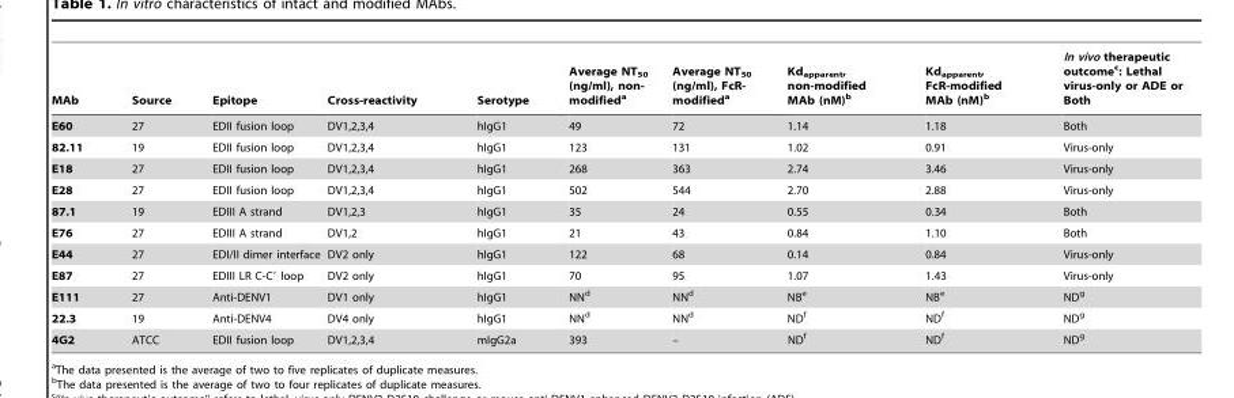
<table><thead><tr><td>MAb</td><td>Source</td><td>Epitope</td><td>Cross-reactivity</td><td>Serotype</td><td>Average NT<sub>50</sub> (ng/ml), non- modified<sup>a</sup></td><td>Average NT<sub>50</sub> (ng/ml), FcR- modified<sup>a</sup></td><td>Kd<sub>apparent</sub>, non-modified MAb (nM)<sup>b</sup></td><td>Kd<sub>apparent</sub>, FcR-modified MAb (nM)<sup>b</sup></td><td>In vivo therapeutic outcome<sup>c</sup>: Lethal virus-only or ADE or Both</td></tr></thead><tbody><tr><td>E60</td><td>27</td><td>EDII fusion loop</td><td>DV1,2,3,4</td><td>hIgG1</td><td>49</td><td>72</td><td>1.14</td><td>1.18</td><td>Both</td></tr><tr><td>82.11</td><td>19</td><td>EDII fusion loop</td><td>DV1,2,3,4</td><td>hIgG1</td><td>123</td><td>131</td><td>1.02</td><td>0.91</td><td>Virus-only</td></tr><tr><td>E18</td><td>27</td><td>EDII fusion loop</td><td>DV1,2,3,4</td><td>hIgG1</td><td>268</td><td>363</td><td>2.74</td><td>3.46</td><td>Virus-only</td></tr><tr><td>E28</td><td>27</td><td>EDII fusion loop</td><td>DV1,2,3,4</td><td>hIgG1</td><td>502</td><td>544</td><td>2.70</td><td>2.88</td><td>Virus-only</td></tr><tr><td>87.1</td><td>19</td><td>EDIII A strand</td><td>DV1,2,3</td><td>hIgG1</td><td>35</td><td>24</td><td>0.55</td><td>0.34</td><td>Both</td></tr><tr><td>E76</td><td>27</td><td>EDIII A strand</td><td>DV1,2</td><td>hIgG1</td><td>21</td><td>43</td><td>0.84</td><td>1.10</td><td>Both</td></tr><tr><td>E44</td><td>27</td><td>EDI/II dimer interface</td><td>DV2 only</td><td>hIgG1</td><td>122</td><td>68</td><td>0.14</td><td>0.84</td><td>Virus-only</td></tr><tr><td>E87</td><td>27</td><td>EDIII LR C-C′ loop</td><td>DV2 only</td><td>hIgG1</td><td>70</td><td>95</td><td>1.07</td><td>1.43</td><td>Virus-only</td></tr><tr><td>E111</td><td>27</td><td>Anti-DENV1</td><td>DV1 only</td><td>hIgG1</td><td>NN<sup>d</sup></td><td>NN<sup>d</sup></td><td>NB<sup>e</sup></td><td>NB<sup>e</sup></td><td>ND<sup>g</sup></td></tr><tr><td>22.3</td><td>19</td><td>Anti-DENV4</td><td>DV4 only</td><td>hIgG1</td><td>NN<sup>d</sup></td><td>NN<sup>d</sup></td><td>ND<sup>f</sup></td><td>ND<sup>f</sup></td><td>ND<sup>g</sup></td></tr><tr><td>4G2</td><td>ATCC</td><td>EDII fusion loop</td><td>DV1,2,3,4</td><td>mIgG2a</td><td>393</td><td>–</td><td>ND<sup>f</sup></td><td>ND<sup>f</sup></td><td>ND<sup>g</sup></td></tr></tbody></table>